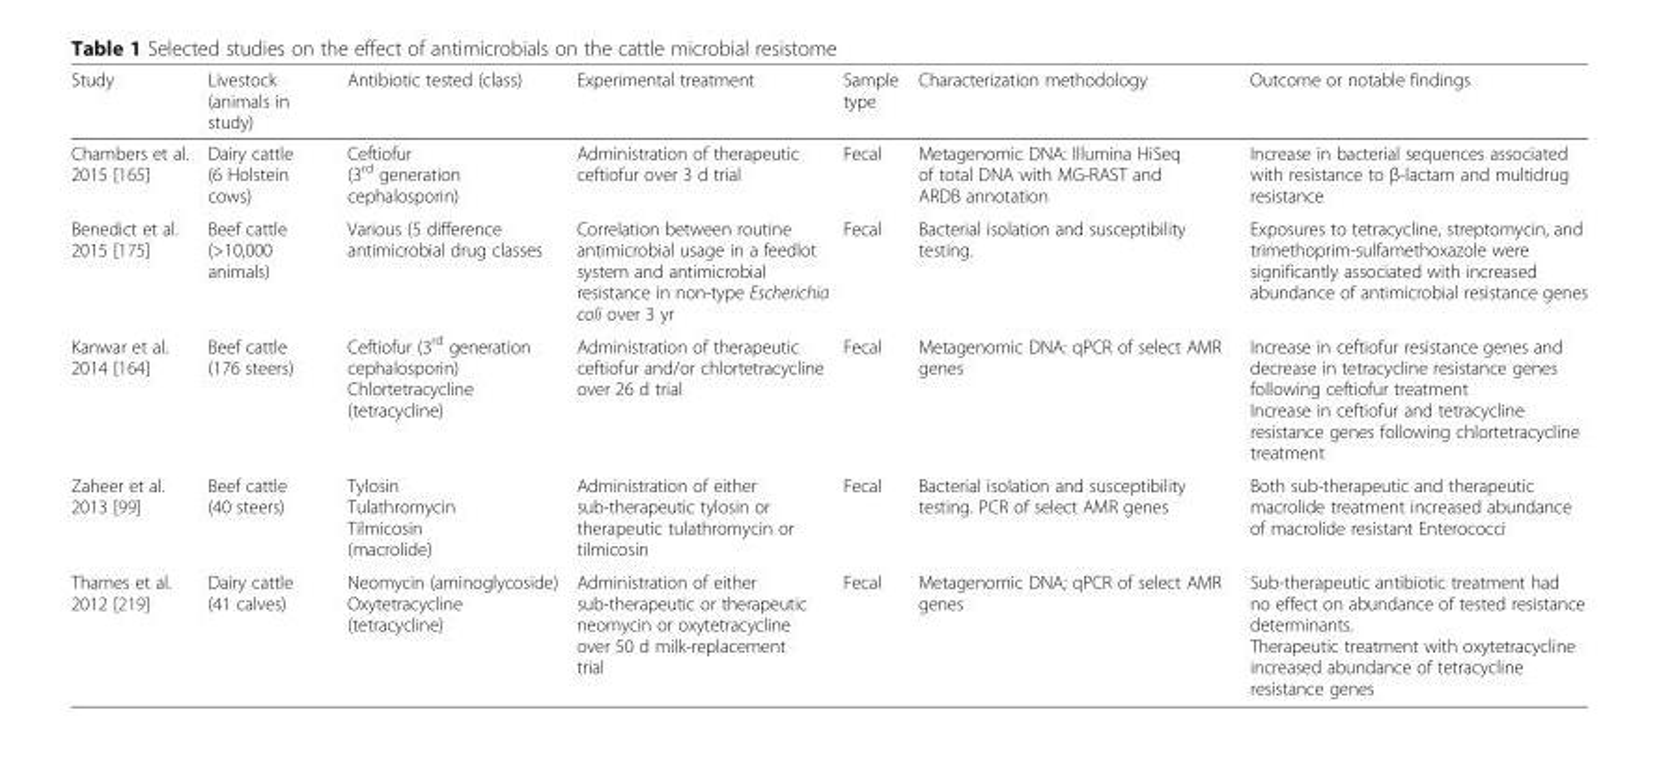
<table><thead><tr><td>Study</td><td>Livestock (animals in study)</td><td>Antibiotic tested (class)</td><td>Experimental treatment</td><td>Sample type</td><td>Characterization methodology</td><td>Outcome or notable findings</td></tr></thead><tbody><tr><td>Chambers et al. 2015 [165]</td><td>Dairy cattle (6 Holstein cows)</td><td>Ceftiofur (3<sup>rd</sup> generation cephalosporin)</td><td>Administration of therapeutic ceftiofur over 3 d trial</td><td>Fecal</td><td>Metagenomic DNA: Illumina HiSeq of total DNA with MG-RAST and ARDB annotation</td><td>Increase in bacterial sequences associated with resistance to β-lactam and multidrug resistance</td></tr><tr><td>Benedict et al. 2015 [175]</td><td>Beef cattle (&gt;10,000 animals)</td><td>Various (5 difference antimicrobial drug classes</td><td>Correlation between routine antimicrobial usage in a feedlot system and antimicrobial resistance in non-type Escherichia coli over 3 yr</td><td>Fecal</td><td>Bacterial isolation and susceptibility testing.</td><td>Exposures to tetracycline, streptomycin, and trimethoprim-sulfamethoxazole were significantly associated with increased abundance of antimicrobial resistance genes</td></tr><tr><td>Kanwar et al. 2014 [164]</td><td>Beef cattle (176 steers)</td><td>Ceftiofur (3<sup>rd</sup> generation cephalosporin) Chlortetracycline (tetracycline)</td><td>Administration of therapeutic ceftiofur and/or chlortetracycline over 26 d trial</td><td>Fecal</td><td>Metagenomic DNA: qPCR of select AMR genes</td><td>Increase in ceftiofur resistance genes and decrease in tetracycline resistance genes following ceftiofur treatment Increase in ceftiofur and tetracycline resistance genes following chlortetracycline treatment</td></tr><tr><td>Zaheer et al. 2013 [99]</td><td>Beef cattle (40 steers)</td><td>Tylosin Tulathromycin Tilmicosin (macrolide)</td><td>Administration of either sub-therapeutic tylosin or therapeutic tulathromycin or tilmicosin</td><td>Fecal</td><td>Bacterial isolation and susceptibility testing. PCR of select AMR genes</td><td>Both sub-therapeutic and therapeutic macrolide treatment increased abundance of macrolide resistant Enterococci</td></tr><tr><td>Thames et al. 2012 [219]</td><td>Dairy cattle (41 calves)</td><td>Neomycin (aminoglycoside) Oxytetracycline (tetracycline)</td><td>Administration of either sub-therapeutic or therapeutic neomycin or oxytetracycline over 50 d milk-replacement trial</td><td>Fecal</td><td>Metagenomic DNA; qPCR of select AMR genes</td><td>Sub-therapeutic antibiotic treatment had no effect on abundance of tested resistance determinants. Therapeutic treatment with oxytetracycline increased abundance of tetracycline resistance genes</td></tr></tbody></table>